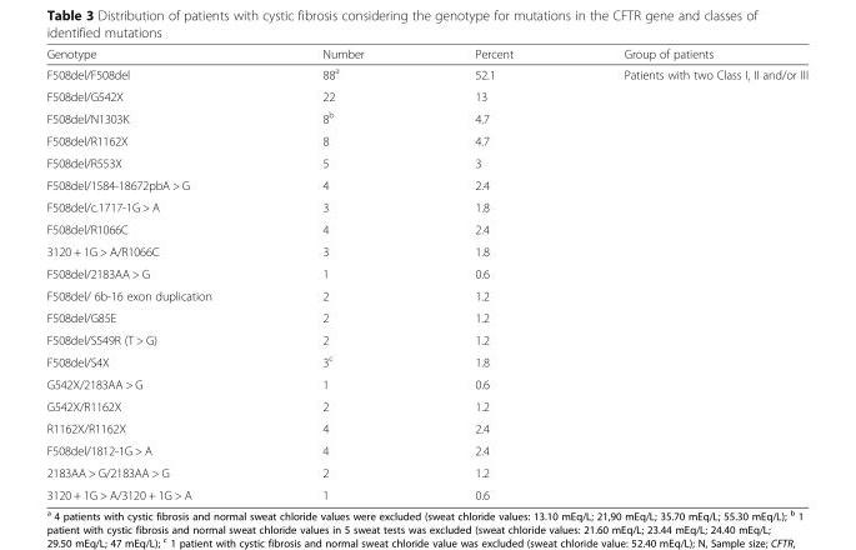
<table><thead><tr><td>Genotype</td><td>Number</td><td>Percent</td><td>Group of patients</td></tr></thead><tbody><tr><td>F508del/F508del</td><td>88<sup>a</sup></td><td>52.1</td><td rowspan="20">Patients with two Class I, II and/or III</td></tr><tr><td>F508del/G542X</td><td>22</td><td>13</td></tr><tr><td>F508del/N1303K</td><td>8<sup>b</sup></td><td>4.7</td></tr><tr><td>F508del/R1162X</td><td>8</td><td>4.7</td></tr><tr><td>F508del/R553X</td><td>5</td><td>3</td></tr><tr><td>F508del/1584-18672pbA &gt; G</td><td>4</td><td>2.4</td></tr><tr><td>F508del/c.1717-1G &gt; A</td><td>3</td><td>1.8</td></tr><tr><td>F508del/R1066C</td><td>4</td><td>2.4</td></tr><tr><td>3120 + 1G &gt; A/R1066C</td><td>3</td><td>1.8</td></tr><tr><td>F508del/2183AA &gt; G</td><td>1</td><td>0.6</td></tr><tr><td>F508del/ 6b-16 exon duplication</td><td>2</td><td>1.2</td></tr><tr><td>F508del/G85E</td><td>2</td><td>1.2</td></tr><tr><td>F508del/S549R (T &gt; G)</td><td>2</td><td>1.2</td></tr><tr><td>F508del/S4X</td><td>3<sup>c</sup></td><td>1.8</td></tr><tr><td>G542X/2183AA &gt; G</td><td>1</td><td>0.6</td></tr><tr><td>G542X/R1162X</td><td>2</td><td>1.2</td></tr><tr><td>R1162X/R1162X</td><td>4</td><td>2.4</td></tr><tr><td>F508del/1812-1G &gt; A</td><td>4</td><td>2.4</td></tr><tr><td>2183AA &gt; G/2183AA &gt; G</td><td>2</td><td>1.2</td></tr><tr><td>3120 + 1G &gt; A/3120 + 1G &gt; A</td><td>1</td><td>0.6</td></tr></tbody></table>